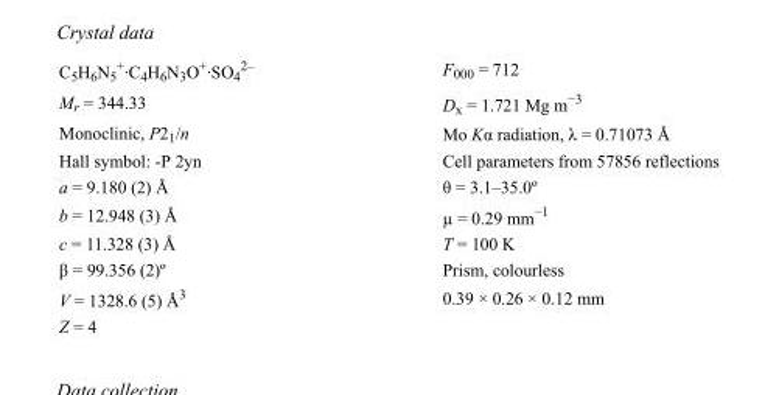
<table><tbody><tr><td>C<sub>5</sub>H<sub>6</sub>N<sub>5</sub> <sup>+</sup>·C<sub>4</sub>H<sub>6</sub>N<sub>3</sub>O<sup>+</sup>·SO<sub>4</sub> <sup>2–</sup></td><td>F000 = 712</td></tr><tr><td>M<sub>r</sub> = 344.33</td><td>D<sub>x</sub> = 1.721 Mg m<sup>−3</sup></td></tr><tr><td>Monoclinic, P2<sub>1</sub>/n</td><td>Mo Kα radiation, λ = 0.71073 Å</td></tr><tr><td>Hall symbol: -P 2yn</td><td>Cell parameters from 57856 reflections</td></tr><tr><td>a = 9.180 (2) Å</td><td>θ = 3.1–35.0º</td></tr><tr><td>b = 12.948 (3) Å</td><td>µ = 0.29 mm<sup>−1</sup></td></tr><tr><td>c = 11.328 (3) Å</td><td>T = 100 K</td></tr><tr><td>β = 99.356 (2)º</td><td>Prism, colourless</td></tr><tr><td>V = 1328.6 (5) Å<sup>3</sup></td><td>0.39 × 0.26 × 0.12 mm</td></tr><tr><td>Z = 4</td><td></td></tr></tbody></table>